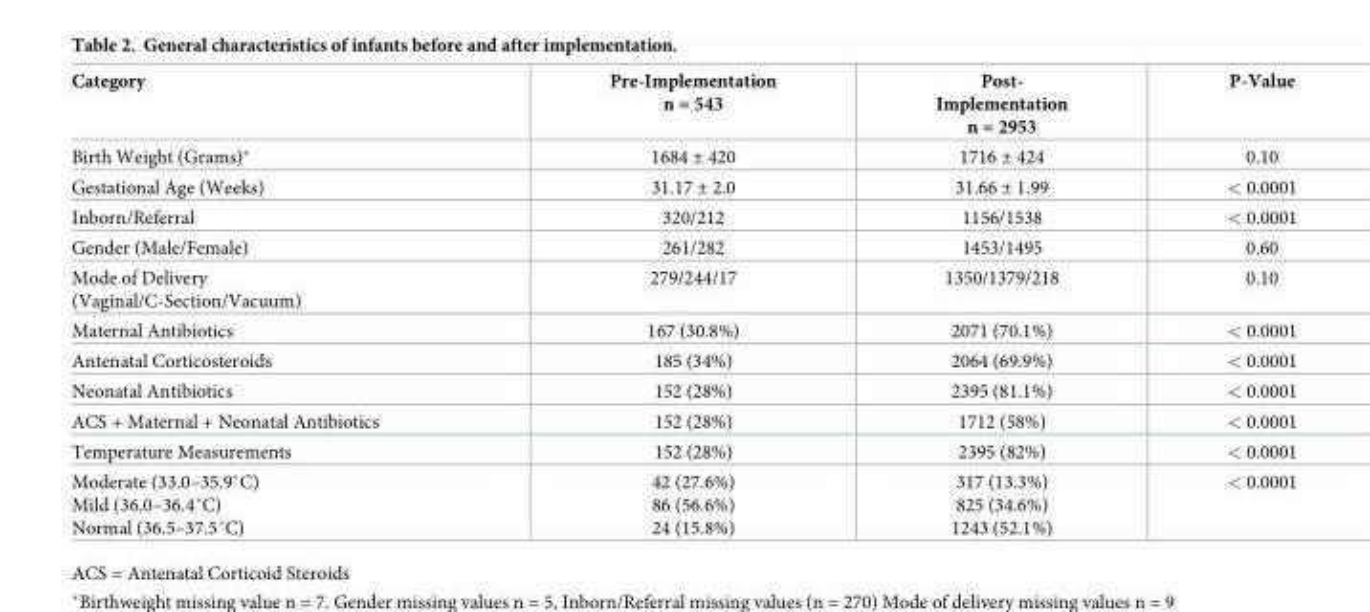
<table><thead><tr><td>Category</td><td>Pre-Implementation n = 543</td><td>Post- Implementation n = 2953</td><td>P-Value</td></tr></thead><tbody><tr><td>Birth Weight (Grams)*</td><td>1684 ± 420</td><td>1716 ± 424</td><td>0.10</td></tr><tr><td>Gestational Age (Weeks)</td><td>31.17 ± 2.0</td><td>31.66 ± 1.99</td><td>&lt; 0.0001</td></tr><tr><td>Inborn/Referral</td><td>320/212</td><td>1156/1538</td><td>&lt; 0.0001</td></tr><tr><td>Gender (Male/Female)</td><td>261/282</td><td>1453/1495</td><td>0.60</td></tr><tr><td>Mode of Delivery (Vaginal/C-Section/Vacuum)</td><td>279/244/17</td><td>1350/1379/218</td><td>0.10</td></tr><tr><td>Maternal Antibiotics</td><td>167 (30.8%)</td><td>2071 (70.1%)</td><td>&lt; 0.0001</td></tr><tr><td>Antenatal Corticosteroids</td><td>185 (34%)</td><td>2064 (69.9%)</td><td>&lt; 0.0001</td></tr><tr><td>Neonatal Antibiotics</td><td>152 (28%)</td><td>2395 (81.1%)</td><td>&lt; 0.0001</td></tr><tr><td>ACS + Maternal + Neonatal Antibiotics</td><td>152 (28%)</td><td>1712 (58%)</td><td>&lt; 0.0001</td></tr><tr><td>Temperature Measurements</td><td>152 (28%)</td><td>2395 (82%)</td><td>&lt; 0.0001</td></tr><tr><td>Moderate (33.0–35.9˚C) Mild (36.0–36.4˚C) Normal (36.5–37.5˚C)</td><td>42 (27.6%) 86 (56.6%) 24 (15.8%)</td><td>317 (13.3%) 825 (34.6%) 1243 (52.1%)</td><td>&lt; 0.0001</td></tr></tbody></table>